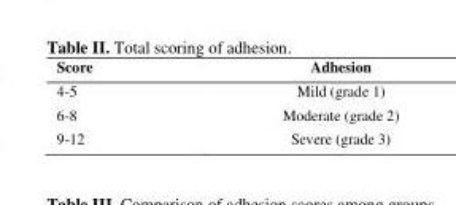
<table><thead><tr><td>Score</td><td>Adhesion</td></tr></thead><tbody><tr><td>4-5</td><td>Mild (grade 1)</td></tr><tr><td>6-8</td><td>Moderate (grade 2)</td></tr><tr><td>9-12</td><td>Severe (grade 3)</td></tr></tbody></table>